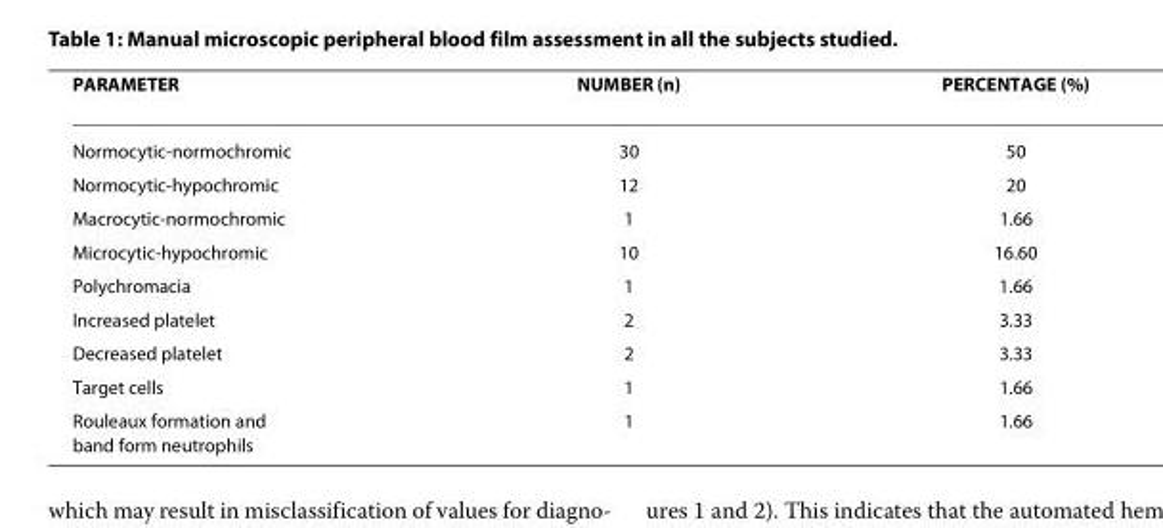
<table><thead><tr><td>PARAMETER</td><td>NUMBER (n)</td><td>PERCENTAGE (%)</td></tr></thead><tbody><tr><td>Normocytic-normochromic</td><td>30</td><td>50</td></tr><tr><td>Normocytic-hypochromic</td><td>12</td><td>20</td></tr><tr><td>Macrocytic-normochromic</td><td>1</td><td>1.66</td></tr><tr><td>Microcytic-hypochromic</td><td>10</td><td>16.60</td></tr><tr><td>Polychromacia</td><td>1</td><td>1.66</td></tr><tr><td>Increased platelet</td><td>2</td><td>3.33</td></tr><tr><td>Decreased platelet</td><td>2</td><td>3.33</td></tr><tr><td>Target cells</td><td>1</td><td>1.66</td></tr><tr><td>Rouleaux formation and band form neutrophils</td><td>1</td><td>1.66</td></tr></tbody></table>